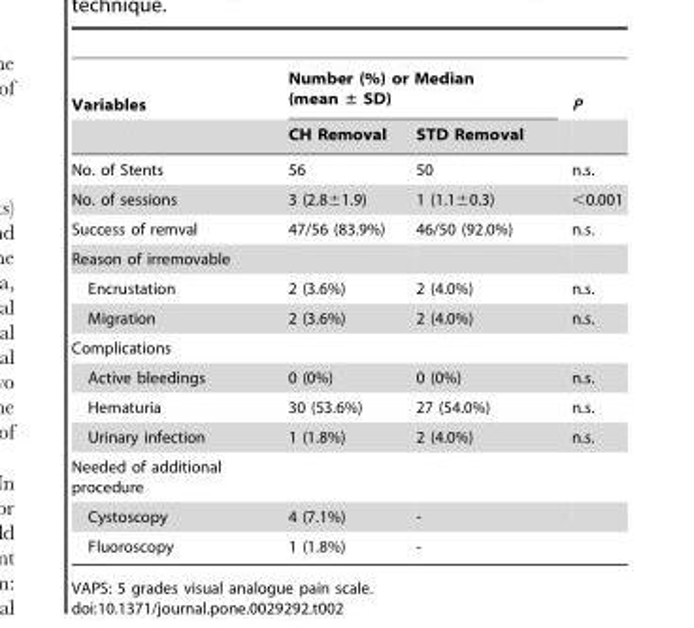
<table><thead><tr><td rowspan="2">Variables</td><td colspan="2">Number (%) or Median (mean ± SD)</td><td rowspan="2">P</td></tr><tr><td>CH Removal</td><td>STD Removal</td></tr></thead><tbody><tr><td>No. of Stents</td><td>56</td><td>50</td><td>n.s.</td></tr><tr><td>No. of sessions</td><td>3 (2.8±1.9)</td><td>1 (1.1±0.3)</td><td>&lt;0.001</td></tr><tr><td>Success of remval</td><td>47/56 (83.9%)</td><td>46/50 (92.0%)</td><td>n.s.</td></tr><tr><td colspan="4">Reason of irremovable</td></tr><tr><td>Encrustation</td><td>2 (3.6%)</td><td>2 (4.0%)</td><td>n.s.</td></tr><tr><td>Migration</td><td>2 (3.6%)</td><td>2 (4.0%)</td><td>n.s.</td></tr><tr><td colspan="4">Complications</td></tr><tr><td>Active bleedings</td><td>0 (0%)</td><td>0 (0%)</td><td>n.s.</td></tr><tr><td>Hematuria</td><td>30 (53.6%)</td><td>27 (54.0%)</td><td>n.s.</td></tr><tr><td>Urinary infection</td><td>1 (1.8%)</td><td>2 (4.0%)</td><td>n.s.</td></tr><tr><td colspan="4">Needed of additional procedure</td></tr><tr><td>Cystoscopy</td><td>4 (7.1%)</td><td>-</td><td></td></tr><tr><td>Fluoroscopy</td><td>1 (1.8%)</td><td>-</td><td></td></tr></tbody></table>